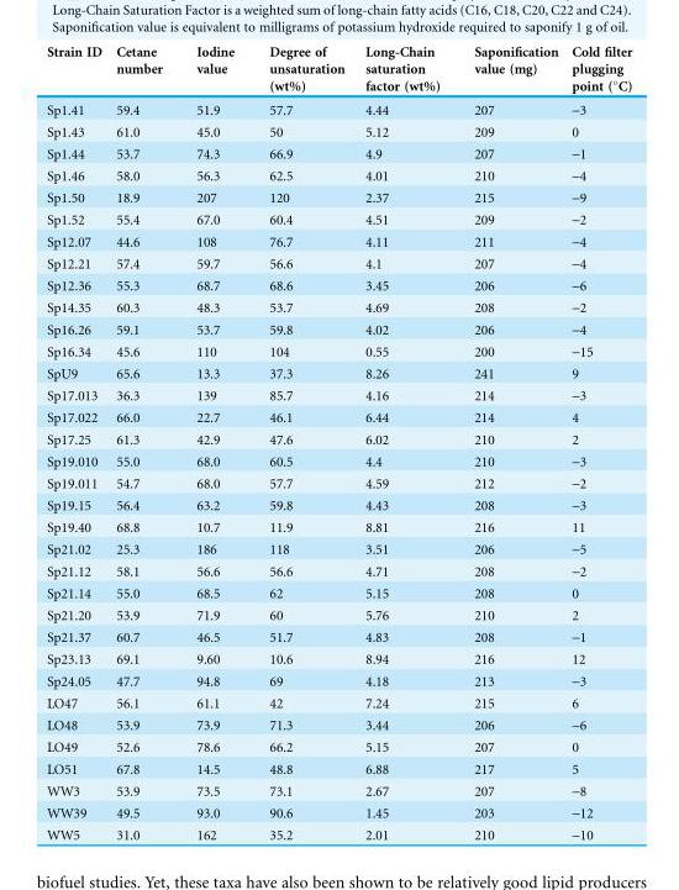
<table><thead><tr><td>Strain ID</td><td>Cetane number</td><td>Iodine value</td><td>Degree of unsaturation (wt%)</td><td>Long-Chain saturation factor (wt%)</td><td>Saponification value (mg)</td><td>Cold filter plugging point (°C)</td></tr></thead><tbody><tr><td>Sp1.41</td><td>59.4</td><td>51.9</td><td>57.7</td><td>4.44</td><td>207</td><td>-3</td></tr><tr><td>Sp1.43</td><td>61.0</td><td>45.0</td><td>50</td><td>5.12</td><td>209</td><td>0</td></tr><tr><td>Sp1.44</td><td>53.7</td><td>74.3</td><td>66.9</td><td>4.9</td><td>207</td><td>-1</td></tr><tr><td>Sp1.46</td><td>58.0</td><td>56.3</td><td>62.5</td><td>4.01</td><td>210</td><td>-4</td></tr><tr><td>Sp1.50</td><td>18.9</td><td>207</td><td>120</td><td>2.37</td><td>215</td><td>-9</td></tr><tr><td>Sp1.52</td><td>55.4</td><td>67.0</td><td>60.4</td><td>4.51</td><td>209</td><td>-2</td></tr><tr><td>Sp12.07</td><td>44.6</td><td>108</td><td>76.7</td><td>4.11</td><td>211</td><td>-4</td></tr><tr><td>Sp12.21</td><td>57.4</td><td>59.7</td><td>56.6</td><td>4.1</td><td>207</td><td>-4</td></tr><tr><td>Sp12.36</td><td>55.3</td><td>68.7</td><td>68.6</td><td>3.45</td><td>206</td><td>-6</td></tr><tr><td>Sp14.35</td><td>60.3</td><td>48.3</td><td>53.7</td><td>4.69</td><td>208</td><td>-2</td></tr><tr><td>Sp16.26</td><td>59.1</td><td>53.7</td><td>59.8</td><td>4.02</td><td>206</td><td>-4</td></tr><tr><td>Sp16.34</td><td>45.6</td><td>110</td><td>104</td><td>0.55</td><td>200</td><td>-15</td></tr><tr><td>SpU9</td><td>65.6</td><td>13.3</td><td>37.3</td><td>8.26</td><td>241</td><td>9</td></tr><tr><td>Sp17.013</td><td>36.3</td><td>139</td><td>85.7</td><td>4.16</td><td>214</td><td>-3</td></tr><tr><td>Sp17.022</td><td>66.0</td><td>22.7</td><td>46.1</td><td>6.44</td><td>214</td><td>4</td></tr><tr><td>Sp17.25</td><td>61.3</td><td>42.9</td><td>47.6</td><td>6.02</td><td>210</td><td>2</td></tr><tr><td>Sp19.010</td><td>55.0</td><td>68.0</td><td>60.5</td><td>4.4</td><td>210</td><td>-3</td></tr><tr><td>Sp19.011</td><td>54.7</td><td>68.0</td><td>57.7</td><td>4.59</td><td>212</td><td>-2</td></tr><tr><td>Sp19.15</td><td>56.4</td><td>63.2</td><td>59.8</td><td>4.43</td><td>208</td><td>-3</td></tr><tr><td>Sp19.40</td><td>68.8</td><td>10.7</td><td>11.9</td><td>8.81</td><td>216</td><td>11</td></tr><tr><td>Sp21.02</td><td>25.3</td><td>186</td><td>118</td><td>3.51</td><td>206</td><td>-5</td></tr><tr><td>Sp21.12</td><td>58.1</td><td>56.6</td><td>56.6</td><td>4.71</td><td>208</td><td>-2</td></tr><tr><td>Sp21.14</td><td>55.0</td><td>68.5</td><td>62</td><td>5.15</td><td>208</td><td>0</td></tr><tr><td>Sp21.20</td><td>53.9</td><td>71.9</td><td>60</td><td>5.76</td><td>210</td><td>2</td></tr><tr><td>Sp21.37</td><td>60.7</td><td>46.5</td><td>51.7</td><td>4.83</td><td>208</td><td>-1</td></tr><tr><td>Sp23.13</td><td>69.1</td><td>9.60</td><td>10.6</td><td>8.94</td><td>216</td><td>12</td></tr><tr><td>Sp24.05</td><td>47.7</td><td>94.8</td><td>69</td><td>4.18</td><td>213</td><td>-3</td></tr><tr><td>LO47</td><td>56.1</td><td>61.1</td><td>42</td><td>7.24</td><td>215</td><td>6</td></tr><tr><td>LO48</td><td>53.9</td><td>73.9</td><td>71.3</td><td>3.44</td><td>206</td><td>-6</td></tr><tr><td>LO49</td><td>52.6</td><td>78.6</td><td>66.2</td><td>5.15</td><td>207</td><td>0</td></tr><tr><td>LO51</td><td>67.8</td><td>14.5</td><td>48.8</td><td>6.88</td><td>217</td><td>5</td></tr><tr><td>WW3</td><td>53.9</td><td>73.5</td><td>73.1</td><td>2.67</td><td>207</td><td>-8</td></tr><tr><td>WW39</td><td>49.5</td><td>93.0</td><td>90.6</td><td>1.45</td><td>203</td><td>-12</td></tr><tr><td>WW5</td><td>31.0</td><td>162</td><td>35.2</td><td>2.01</td><td>210</td><td>-10</td></tr></tbody></table>